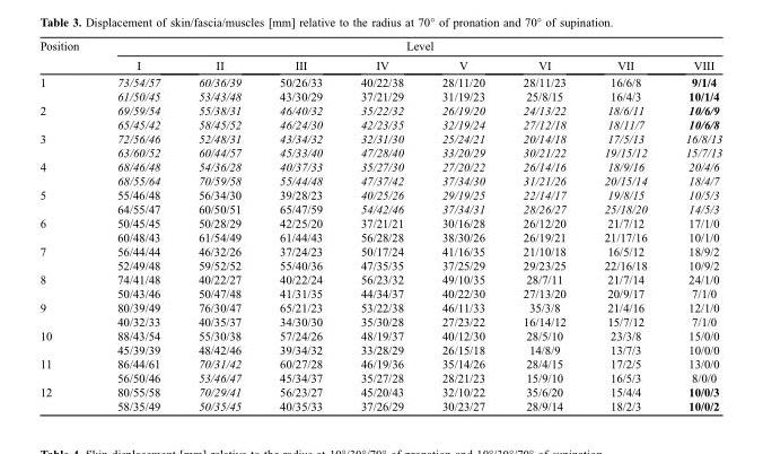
<table><thead><tr><td rowspan="2">Position</td><td colspan="8">Level</td></tr><tr><td>I</td><td>II</td><td>III</td><td>IV</td><td>V</td><td>VI</td><td>VII</td><td>VIII</td></tr></thead><tbody><tr><td rowspan="2">1</td><td>73/54/57</td><td>60/36/39</td><td>50/26/33</td><td>40/22/38</td><td>28/11/20</td><td>28/11/23</td><td>16/6/8</td><td>9/1/4</td></tr><tr><td>61/50/45</td><td>53/43/48</td><td>43/30/29</td><td>37/21/29</td><td>31/19/23</td><td>25/8/15</td><td>16/4/3</td><td>10/1/4</td></tr><tr><td rowspan="2">2</td><td>69/59/54</td><td>55/38/31</td><td>46/40/32</td><td>35/22/32</td><td>26/19/20</td><td>24/13/22</td><td>18/6/11</td><td>10/6/9</td></tr><tr><td>65/45/42</td><td>58/45/52</td><td>46/24/30</td><td>42/23/35</td><td>32/19/24</td><td>27/12/18</td><td>18/11/7</td><td>10/6/8</td></tr><tr><td rowspan="2">3</td><td>72/56/46</td><td>52/48/31</td><td>43/34/32</td><td>32/31/30</td><td>25/24/21</td><td>20/14/18</td><td>17/5/13</td><td>16/8/13</td></tr><tr><td>63/60/52</td><td>60/44/57</td><td>45/33/40</td><td>47/28/40</td><td>33/20/29</td><td>30/21/22</td><td>19/15/12</td><td>15/7/13</td></tr><tr><td rowspan="2">4</td><td>68/46/48</td><td>54/36/28</td><td>40/37/33</td><td>35/27/30</td><td>27/20/22</td><td>26/14/16</td><td>18/9/16</td><td>20/4/6</td></tr><tr><td>68/55/64</td><td>70/59/58</td><td>55/44/48</td><td>47/37/42</td><td>37/34/30</td><td>31/21/26</td><td>20/15/14</td><td>18/4/7</td></tr><tr><td rowspan="2">5</td><td>55/46/48</td><td>56/34/30</td><td>39/28/23</td><td>40/25/26</td><td>29/19/25</td><td>22/14/17</td><td>19/8/15</td><td>10/5/3</td></tr><tr><td>64/55/47</td><td>60/50/51</td><td>65/47/59</td><td>54/42/46</td><td>37/34/31</td><td>28/26/27</td><td>25/18/20</td><td>14/5/3</td></tr><tr><td rowspan="2">6</td><td>50/45/45</td><td>50/28/29</td><td>42/25/20</td><td>37/21/21</td><td>30/16/28</td><td>26/12/20</td><td>21/7/12</td><td>17/1/0</td></tr><tr><td>60/48/43</td><td>61/54/49</td><td>61/44/43</td><td>56/28/28</td><td>38/30/26</td><td>26/19/21</td><td>21/17/16</td><td>10/1/0</td></tr><tr><td rowspan="2">7</td><td>56/44/44</td><td>46/32/26</td><td>37/24/23</td><td>50/17/24</td><td>41/16/35</td><td>21/10/18</td><td>16/5/12</td><td>18/9/2</td></tr><tr><td>52/49/48</td><td>59/52/52</td><td>55/40/36</td><td>47/35/35</td><td>37/25/29</td><td>29/23/25</td><td>22/16/18</td><td>10/9/2</td></tr><tr><td rowspan="2">8</td><td>74/41/48</td><td>40/22/27</td><td>40/22/24</td><td>56/23/32</td><td>49/10/35</td><td>28/7/11</td><td>21/7/14</td><td>24/1/0</td></tr><tr><td>50/43/46</td><td>50/47/48</td><td>41/31/35</td><td>44/34/37</td><td>40/22/30</td><td>27/13/20</td><td>20/9/17</td><td>7/1/0</td></tr><tr><td rowspan="2">9</td><td>80/39/49</td><td>76/30/47</td><td>65/21/23</td><td>53/22/38</td><td>46/11/33</td><td>35/3/8</td><td>21/4/16</td><td>12/1/0</td></tr><tr><td>40/32/33</td><td>40/35/37</td><td>34/30/30</td><td>35/30/28</td><td>27/23/22</td><td>16/14/12</td><td>15/7/12</td><td>7/1/0</td></tr><tr><td rowspan="2">10</td><td>88/43/54</td><td>55/30/38</td><td>57/24/26</td><td>48/19/37</td><td>40/12/30</td><td>28/5/10</td><td>23/3/8</td><td>15/0/0</td></tr><tr><td>45/39/39</td><td>48/42/46</td><td>39/34/32</td><td>33/28/29</td><td>26/15/18</td><td>14/8/9</td><td>13/7/3</td><td>10/0/0</td></tr><tr><td rowspan="2">11</td><td>86/44/61</td><td>70/31/42</td><td>60/27/28</td><td>46/19/36</td><td>35/14/26</td><td>28/4/15</td><td>17/2/5</td><td>13/0/0</td></tr><tr><td>56/50/46</td><td>53/46/47</td><td>45/34/37</td><td>35/27/28</td><td>28/21/23</td><td>15/9/10</td><td>16/5/3</td><td>8/0/0</td></tr><tr><td rowspan="2">12</td><td>80/55/58</td><td>70/29/41</td><td>56/23/27</td><td>45/20/43</td><td>32/10/22</td><td>35/6/20</td><td>15/4/4</td><td>10/0/3</td></tr><tr><td>58/35/49</td><td>50/35/45</td><td>40/35/33</td><td>37/26/29</td><td>30/23/27</td><td>28/9/14</td><td>18/2/3</td><td>10/0/2</td></tr></tbody></table>